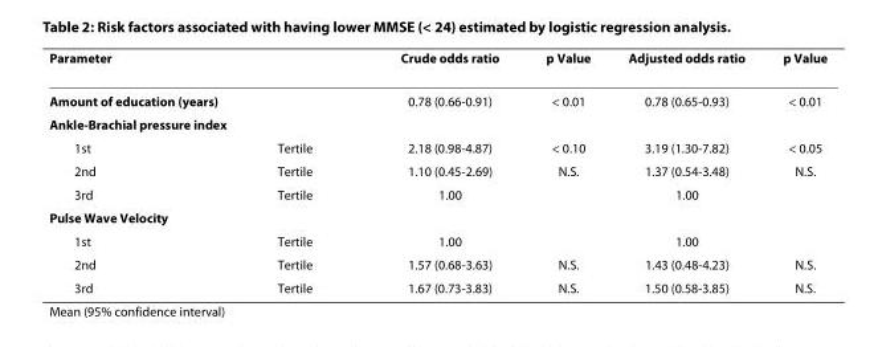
<table><thead><tr><td rowspan="2" colspan="2">Parameter Amount of education (years)</td><td rowspan="2">Crude odds ratio 0.78 (0.66-0.91)</td><td rowspan="4">p Value &lt; 0.01 &lt; 0.10</td><td rowspan="4">Adjusted odds ratio 0.78 (0.65-0.93) 3.19 (1.30-7.82)</td><td rowspan="4">p Value &lt; 0.01 &lt; 0.05</td></tr><tr></tr><tr><td colspan="3">Ankle-Brachial pressure index</td></tr><tr><td>1st</td><td>Tertile</td><td>2.18 (0.98-4.87)</td></tr></thead><tbody><tr><td>2nd</td><td>Tertile</td><td>1.10 (0.45-2.69)</td><td>N.S.</td><td>1.37 (0.54-3.48)</td><td>N.S.</td></tr><tr><td>3rd</td><td>Tertile</td><td>1.00</td><td></td><td>1.00</td><td></td></tr><tr><td colspan="6">Pulse Wave Velocity</td></tr><tr><td>1st</td><td>Tertile</td><td>1.00</td><td></td><td>1.00</td><td></td></tr><tr><td>2nd</td><td>Tertile</td><td>1.57 (0.68-3.63)</td><td>N.S.</td><td>1.43 (0.48-4.23)</td><td>N.S.</td></tr><tr><td>3rd</td><td>Tertile</td><td>1.67 (0.73-3.83)</td><td>N.S.</td><td>1.50 (0.58-3.85)</td><td>N.S.</td></tr></tbody></table>